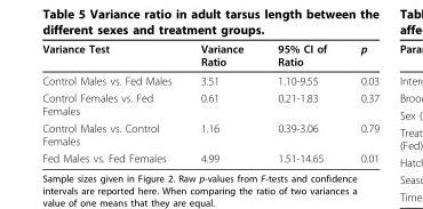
<table><thead><tr><td>Variance Test</td><td>Variance Ratio</td><td>95% CI of Ratio</td><td>p</td></tr></thead><tbody><tr><td>Control Males vs. Fed Males</td><td>3.51</td><td>1.10-9.55</td><td>0.03</td></tr><tr><td>Control Females vs. Fed Females</td><td>0.61</td><td>0.21-1.83</td><td>0.37</td></tr><tr><td>Control Males vs. Control Females</td><td>1.16</td><td>0.39-3.06</td><td>0.79</td></tr><tr><td>Fed Males vs. Fed Females</td><td>4.99</td><td>1.51-14.65</td><td>0.01</td></tr></tbody></table>